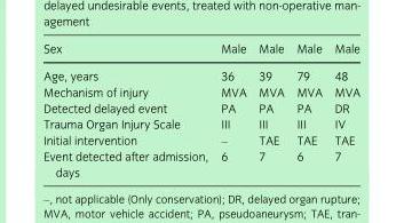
<table><thead><tr><td>Sex</td><td>Male</td><td>Male</td><td>Male</td><td>Male</td></tr></thead><tbody><tr><td>Age, years</td><td>36</td><td>39</td><td>79</td><td>48</td></tr><tr><td>Mechanism of injury</td><td>MVA</td><td>MVA</td><td>MVA</td><td>MVA</td></tr><tr><td>Detected delayed event</td><td>PA</td><td>PA</td><td>PA</td><td>DR</td></tr><tr><td>Trauma Organ Injury Scale</td><td>III</td><td>III</td><td>III</td><td>IV</td></tr><tr><td>Initial intervention</td><td>–</td><td>TAE</td><td>TAE</td><td>TAE</td></tr><tr><td>Event detected after admission, days</td><td>6</td><td>7</td><td>6</td><td>7</td></tr></tbody></table>